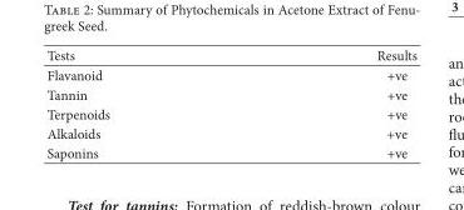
<table><thead><tr><td>Tests</td><td>Results</td></tr></thead><tbody><tr><td>Flavanoid</td><td>+ve</td></tr><tr><td>Tannin</td><td>+ve</td></tr><tr><td>Terpenoids</td><td>+ve</td></tr><tr><td>Alkaloids</td><td>+ve</td></tr><tr><td>Saponins</td><td>+ve</td></tr></tbody></table>